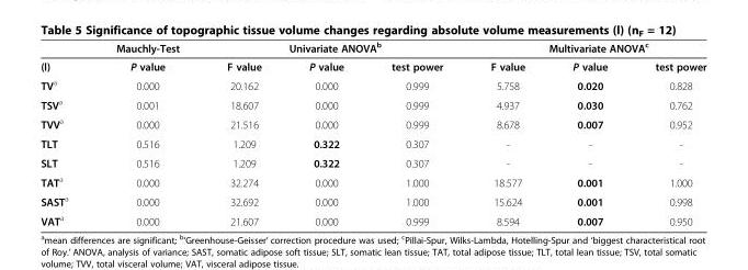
<table><thead><tr><td rowspan="2">(l)</td><td rowspan="2">Mauchly-Test P value</td><td colspan="3">Univariate ANOVA<sup>b</sup></td><td colspan="3">Multivariate ANOVA<sup>c</sup></td></tr><tr><td>F value</td><td>P value</td><td>test power</td><td>F value</td><td>P value</td><td>test power</td></tr></thead><tbody><tr><td>TV<sup>a</sup></td><td>0.000</td><td>20.162</td><td>0.000</td><td>0.999</td><td>5.758</td><td>0.020</td><td>0.828</td></tr><tr><td>TSV<sup>a</sup></td><td>0.001</td><td>18.607</td><td>0.000</td><td>0.999</td><td>4.937</td><td>0.030</td><td>0.762</td></tr><tr><td>TVV<sup>a</sup></td><td>0.000</td><td>21.516</td><td>0.000</td><td>0.999</td><td>8.678</td><td>0.007</td><td>0.952</td></tr><tr><td>TLT</td><td>0.516</td><td>1.209</td><td>0.322</td><td>0.307</td><td>-</td><td>-</td><td>-</td></tr><tr><td>SLT</td><td>0.516</td><td>1.209</td><td>0.322</td><td>0.307</td><td>-</td><td>-</td><td>-</td></tr><tr><td>TAT<sup>a</sup></td><td>0.000</td><td>32.274</td><td>0.000</td><td>1.000</td><td>18.577</td><td>0.001</td><td>1.000</td></tr><tr><td>SAST<sup>a</sup></td><td>0.000</td><td>32.692</td><td>0.000</td><td>1.000</td><td>15.624</td><td>0.001</td><td>0.998</td></tr><tr><td>VAT<sup>a</sup></td><td>0.000</td><td>21.607</td><td>0.000</td><td>0.999</td><td>8.594</td><td>0.007</td><td>0.950</td></tr></tbody></table>